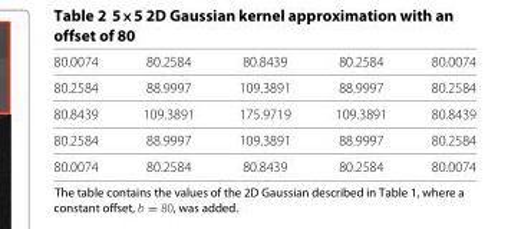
<table><thead><tr><td>80.0074</td><td>80.2584</td><td>80.8439</td><td>80.2584</td><td>80.0074</td></tr></thead><tbody><tr><td>80.2584</td><td>88.9997</td><td>109.3891</td><td>88.9997</td><td>80.2584</td></tr><tr><td>80.8439</td><td>109.3891</td><td>175.9719</td><td>109.3891</td><td>80.8439</td></tr><tr><td>80.2584</td><td>88.9997</td><td>109.3891</td><td>88.9997</td><td>80.2584</td></tr><tr><td>80.0074</td><td>80.2584</td><td>80.8439</td><td>80.2584</td><td>80.0074</td></tr></tbody></table>